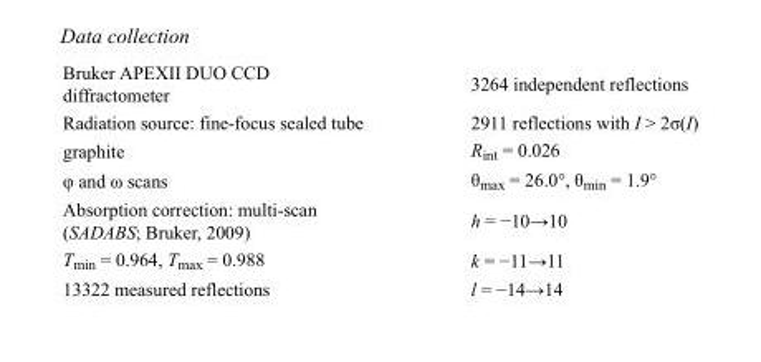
<table><tbody><tr><td>Bruker APEXII DUO CCD diffractometer</td><td>3264 independent reflections</td></tr><tr><td>Radiation source: fine-focus sealed tube</td><td>2911 reflections with I &gt; 2σ(I)</td></tr><tr><td>graphite</td><td>R<sub>int</sub> = 0.026</td></tr><tr><td>φ and ω scans</td><td>θ<sub>max</sub> = 26.0°, θ<sub>min</sub> = 1.9°</td></tr><tr><td>Absorption correction: multi-scan (SADABS; Bruker, 2009)</td><td>h = −10→10</td></tr><tr><td>T<sub>min</sub> = 0.964, T<sub>max</sub> = 0.988</td><td>k = −11→11</td></tr><tr><td>13322 measured reflections</td><td>l = −14→14</td></tr></tbody></table>